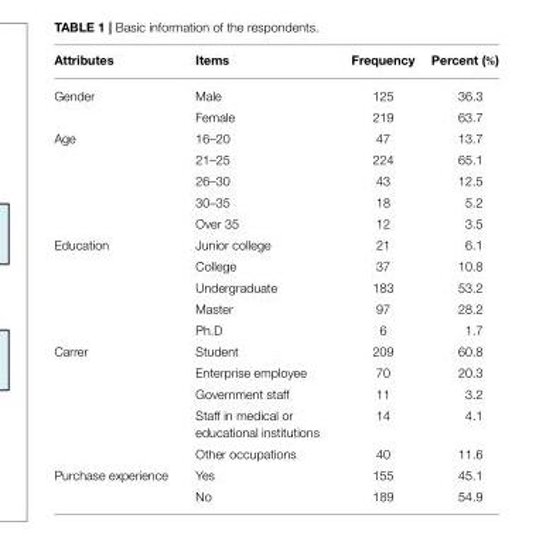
<table><thead><tr><td>Attributes</td><td>Items</td><td>Frequency</td><td>Percent (%)</td></tr></thead><tbody><tr><td rowspan="2">Gender</td><td>Male</td><td>125</td><td>36.3</td></tr><tr><td>Female</td><td>219</td><td>63.7</td></tr><tr><td rowspan="5">Age</td><td>16–20</td><td>47</td><td>13.7</td></tr><tr><td>21–25</td><td>224</td><td>65.1</td></tr><tr><td>26–30</td><td>43</td><td>12.5</td></tr><tr><td>30–35</td><td>18</td><td>5.2</td></tr><tr><td>Over 35</td><td>12</td><td>3.5</td></tr><tr><td rowspan="5">Education</td><td>Junior college</td><td>21</td><td>6.1</td></tr><tr><td>College</td><td>37</td><td>10.8</td></tr><tr><td>Undergraduate</td><td>183</td><td>53.2</td></tr><tr><td>Master</td><td>97</td><td>28.2</td></tr><tr><td>Ph.D</td><td>6</td><td>1.7</td></tr><tr><td rowspan="5">Carrer</td><td>Student</td><td>209</td><td>60.8</td></tr><tr><td>Enterprise employee</td><td>70</td><td>20.3</td></tr><tr><td>Government staff</td><td>11</td><td>3.2</td></tr><tr><td>Staff in medical or educational institutions</td><td>14</td><td>4.1</td></tr><tr><td>Other occupations</td><td>40</td><td>11.6</td></tr><tr><td rowspan="2">Purchase experience</td><td>Yes</td><td>155</td><td>45.1</td></tr><tr><td>No</td><td>189</td><td>54.9</td></tr></tbody></table>